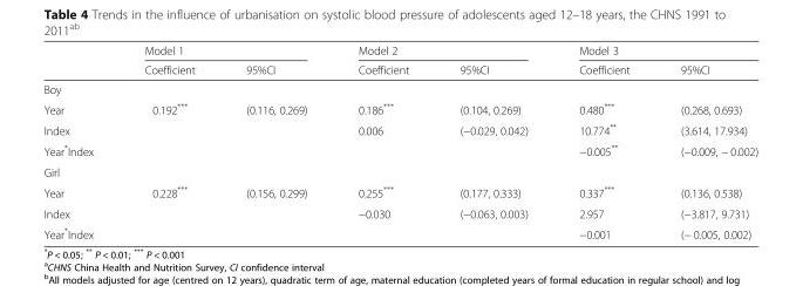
<table><thead><tr><td rowspan="2"></td><td colspan="2">Model 1</td><td colspan="2">Model 2</td><td colspan="2">Model 3</td></tr><tr><td>Coefficient</td><td>95%CI</td><td>Coefficient</td><td>95%CI</td><td>Coefficient</td><td>95%CI</td></tr></thead><tbody><tr><td colspan="7">Boy</td></tr><tr><td>Year</td><td>0.192***</td><td>(0.116, 0.269)</td><td>0.186***</td><td>(0.104, 0.269)</td><td>0.480***</td><td>(0.268, 0.693)</td></tr><tr><td>Index</td><td></td><td></td><td>0.006</td><td>(−0.029, 0.042)</td><td>10.774**</td><td>(3.614, 17.934)</td></tr><tr><td>Year*Index</td><td></td><td></td><td></td><td></td><td>−0.005**</td><td>(−0.009, − 0.002)</td></tr><tr><td colspan="7">Girl</td></tr><tr><td>Year</td><td>0.228***</td><td>(0.156, 0.299)</td><td>0.255***</td><td>(0.177, 0.333)</td><td>0.337***</td><td>(0.136, 0.538)</td></tr><tr><td>Index</td><td></td><td></td><td>−0.030</td><td>(−0.063, 0.003)</td><td>2.957</td><td>(−3.817, 9.731)</td></tr><tr><td>Year*Index</td><td></td><td></td><td></td><td></td><td>−0.001</td><td>(− 0.005, 0.002)</td></tr></tbody></table>